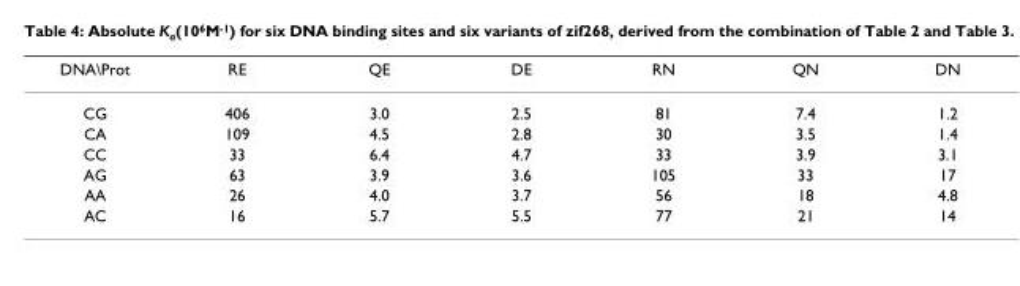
<table><thead><tr><td>DNA\Prot</td><td>RE</td><td>QE</td><td>DE</td><td>RN</td><td>QN</td><td>DN</td></tr></thead><tbody><tr><td>CG</td><td>406</td><td>3.0</td><td>2.5</td><td>81</td><td>7.4</td><td>1.2</td></tr><tr><td>CA</td><td>109</td><td>4.5</td><td>2.8</td><td>30</td><td>3.5</td><td>1.4</td></tr><tr><td>CC</td><td>33</td><td>6.4</td><td>4.7</td><td>33</td><td>3.9</td><td>3.1</td></tr><tr><td>AG</td><td>63</td><td>3.9</td><td>3.6</td><td>105</td><td>33</td><td>17</td></tr><tr><td>AA</td><td>26</td><td>4.0</td><td>3.7</td><td>56</td><td>18</td><td>4.8</td></tr><tr><td>AC</td><td>16</td><td>5.7</td><td>5.5</td><td>77</td><td>21</td><td>14</td></tr></tbody></table>